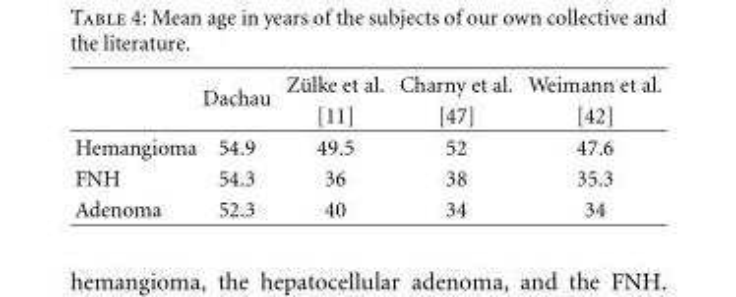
<table><thead><tr><td rowspan="2"></td><td rowspan="2">Dachau</td><td rowspan="2">Z¨ulke et al. [11]</td><td rowspan="2">Charny et al. [47]</td><td rowspan="2">Weimann et al. [42]</td></tr><tr></tr></thead><tbody><tr><td>Hemangioma</td><td>54.9</td><td>49.5</td><td>52</td><td>47.6</td></tr><tr><td>FNH</td><td>54.3</td><td>36</td><td>38</td><td>35.3</td></tr><tr><td>Adenoma</td><td>52.3</td><td>40</td><td>34</td><td>34</td></tr></tbody></table>